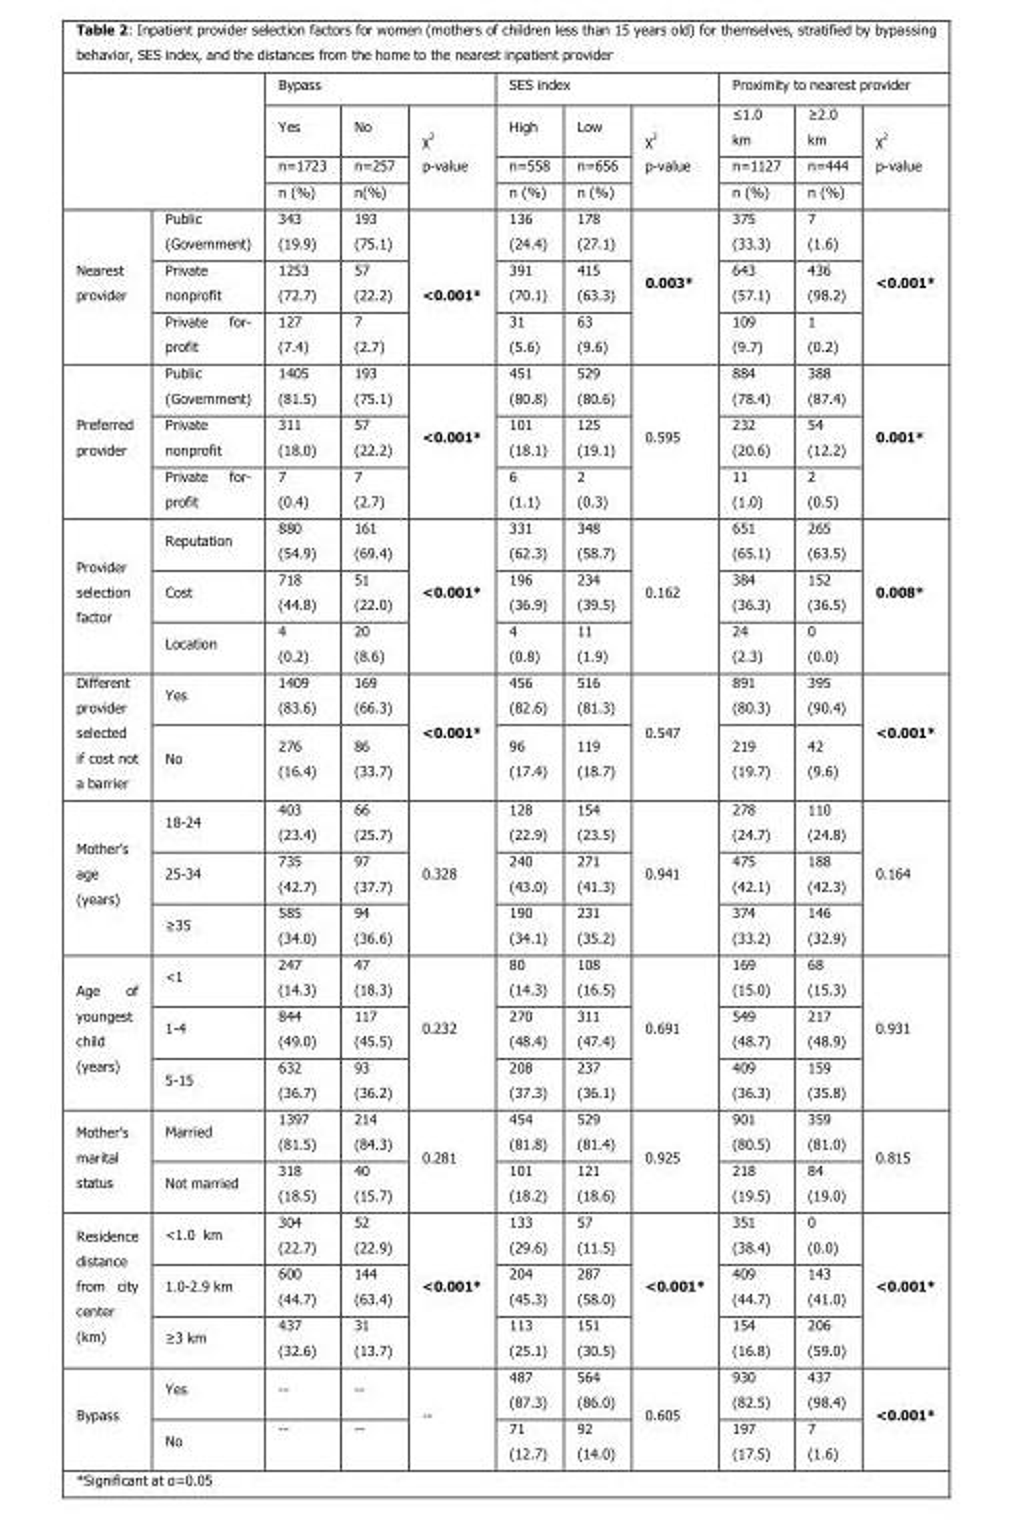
<table><thead><tr><td rowspan="4"></td><td rowspan="4"></td><td colspan="3">Bypass</td><td colspan="3">SES index</td><td colspan="3">Proximity to nearest provider</td></tr><tr><td rowspan="3">Yes n=1723 n (%)</td><td rowspan="3">No n=257 n(%)</td><td rowspan="3">χ<sup>2</sup> p-value</td><td rowspan="3">High n=558 n (%)</td><td rowspan="3">Low n=656 n (%)</td><td rowspan="3">χ<sup>2</sup> p-value</td><td rowspan="3">≤1.0 km n=1127 n (%)</td><td rowspan="3">≥2.0 km n=444 n (%)</td><td rowspan="3">χ<sup>2</sup> p-value</td></tr><tr></tr><tr></tr></thead><tbody><tr><td rowspan="3">Nearest provider</td><td>Public (Government)</td><td>343 (19.9)</td><td>193 (75.1)</td><td rowspan="3">&lt;0.001*</td><td>136 (24.4)</td><td>178 (27.1)</td><td rowspan="3">0.003*</td><td>375 (33.3)</td><td>7 (1.6)</td><td rowspan="3">&lt;0.001*</td></tr><tr><td>Private nonprofit</td><td>1253 (72.7)</td><td>57 (22.2)</td><td>391 (70.1)</td><td>415 (63.3)</td><td>643 (57.1)</td><td>436 (98.2)</td></tr><tr><td>Private for- profit</td><td>127 (7.4)</td><td>7 (2.7)</td><td>31 (5.6)</td><td>63 (9.6)</td><td>109 (9.7)</td><td>1 (0.2)</td></tr><tr><td rowspan="3">Preferred provider</td><td>Public (Government)</td><td>1405 (81.5)</td><td>193 (75.1)</td><td rowspan="3">&lt;0.001*</td><td>451 (80.8)</td><td>529 (80.6)</td><td rowspan="3">0.595</td><td>884 (78.4)</td><td>388 (87.4)</td><td rowspan="3">0.001*</td></tr><tr><td>Private nonprofit</td><td>311 (18.0)</td><td>57 (22.2)</td><td>101 (18.1)</td><td>125 (19.1)</td><td>232 (20.6)</td><td>54 (12.2)</td></tr><tr><td>Private for- profit</td><td>7 (0.4)</td><td>7 (2.7)</td><td>6 (1.1)</td><td>2 (0.3)</td><td>11 (1.0)</td><td>2 (0.5)</td></tr><tr><td rowspan="3">Provider selection factor</td><td>Reputation</td><td>880 (54.9)</td><td>161 (69.4)</td><td rowspan="3">&lt;0.001*</td><td>331 (62.3)</td><td>348 (58.7)</td><td rowspan="3">0.162</td><td>651 (65.1)</td><td>265 (63.5)</td><td rowspan="3">0.008*</td></tr><tr><td>Cost</td><td>718 (44.8)</td><td>51 (22.0)</td><td>196 (36.9)</td><td>234 (39.5)</td><td>384 (36.3)</td><td>152 (36.5)</td></tr><tr><td>Location</td><td>4 (0.2)</td><td>20 (8.6)</td><td>4 (0.8)</td><td>11 (1.9)</td><td>24 (2.3)</td><td>0 (0.0)</td></tr><tr><td rowspan="2">Different provider selected if cost not a barrier</td><td>Yes</td><td>1409 (83.6)</td><td>169 (66.3)</td><td rowspan="2">&lt;0.001*</td><td>456 (82.6)</td><td>516 (81.3)</td><td rowspan="2">0.547</td><td>891 (80.3)</td><td>395 (90.4)</td><td rowspan="2">&lt;0.001*</td></tr><tr><td>No</td><td>276 (16.4)</td><td>86 (33.7)</td><td>96 (17.4)</td><td>119 (18.7)</td><td>219 (19.7)</td><td>42 (9.6)</td></tr><tr><td rowspan="3">Mother’s age (years)</td><td>18-24</td><td>403 (23.4)</td><td>66 (25.7)</td><td rowspan="3">0.328</td><td>128 (22.9)</td><td>154 (23.5)</td><td rowspan="3">0.941</td><td>278 (24.7)</td><td>110 (24.8)</td><td rowspan="3">0.164</td></tr><tr><td>25-34</td><td>735 (42.7)</td><td>97 (37.7)</td><td>240 (43.0)</td><td>271 (41.3)</td><td>475 (42.1)</td><td>188 (42.3)</td></tr><tr><td>≥35</td><td>585 (34.0)</td><td>94 (36.6)</td><td>190 (34.1)</td><td>231 (35.2)</td><td>374 (33.2)</td><td>146 (32.9)</td></tr><tr><td rowspan="3">Age of youngest child (years)</td><td>&lt;1</td><td>247 (14.3)</td><td>47 (18.3)</td><td rowspan="3">0.232</td><td>80 (14.3)</td><td>108 (16.5)</td><td rowspan="3">0.691</td><td>169 (15.0)</td><td>68 (15.3)</td><td rowspan="3">0.931</td></tr><tr><td>1-4</td><td>844 (49.0)</td><td>117 (45.5)</td><td>270 (48.4)</td><td>311 (47.4)</td><td>549 (48.7)</td><td>217 (48.9)</td></tr><tr><td>5-15</td><td>632 (36.7)</td><td>93 (36.2)</td><td>208 (37.3)</td><td>237 (36.1)</td><td>409 (36.3)</td><td>159 (35.8)</td></tr><tr><td rowspan="2">Mother’s marital status</td><td>Married</td><td>1397 (81.5)</td><td>214 (84.3)</td><td rowspan="2">0.281</td><td>454 (81.8)</td><td>529 (81.4)</td><td rowspan="2">0.925</td><td>901 (80.5)</td><td>359 (81.0)</td><td rowspan="2">0.815</td></tr><tr><td>Not married</td><td>318 (18.5)</td><td>40 (15.7)</td><td>101 (18.2)</td><td>121 (18.6)</td><td>218 (19.5)</td><td>84 (19.0)</td></tr><tr><td rowspan="3">Residence distance from city center (km)</td><td>&lt;1.0 km</td><td>304 (22.7)</td><td>52 (22.9)</td><td rowspan="3">&lt;0.001*</td><td>133 (29.6)</td><td>57 (11.5)</td><td rowspan="3">&lt;0.001*</td><td>351 (38.4)</td><td>0 (0.0)</td><td rowspan="3">&lt;0.001*</td></tr><tr><td>1.0-2.9 km</td><td>600 (44.7)</td><td>144 (63.4)</td><td>204 (45.3)</td><td>287 (58.0)</td><td>409 (44.7)</td><td>143 (41.0)</td></tr><tr><td>≥3 km</td><td>437 (32.6)</td><td>31 (13.7)</td><td>113 (25.1)</td><td>151 (30.5)</td><td>154 (16.8)</td><td>206 (59.0)</td></tr><tr><td rowspan="2">Bypass</td><td>Yes</td><td>--</td><td>--</td><td rowspan="2">--</td><td>487 (87.3)</td><td>564 (86.0)</td><td rowspan="2">0.605</td><td>930 (82.5)</td><td>437 (98.4)</td><td rowspan="2">&lt;0.001*</td></tr><tr><td>No</td><td>--</td><td>--</td><td>71 (12.7)</td><td>92 (14.0)</td><td>197 (17.5)</td><td>7 (1.6)</td></tr></tbody></table>